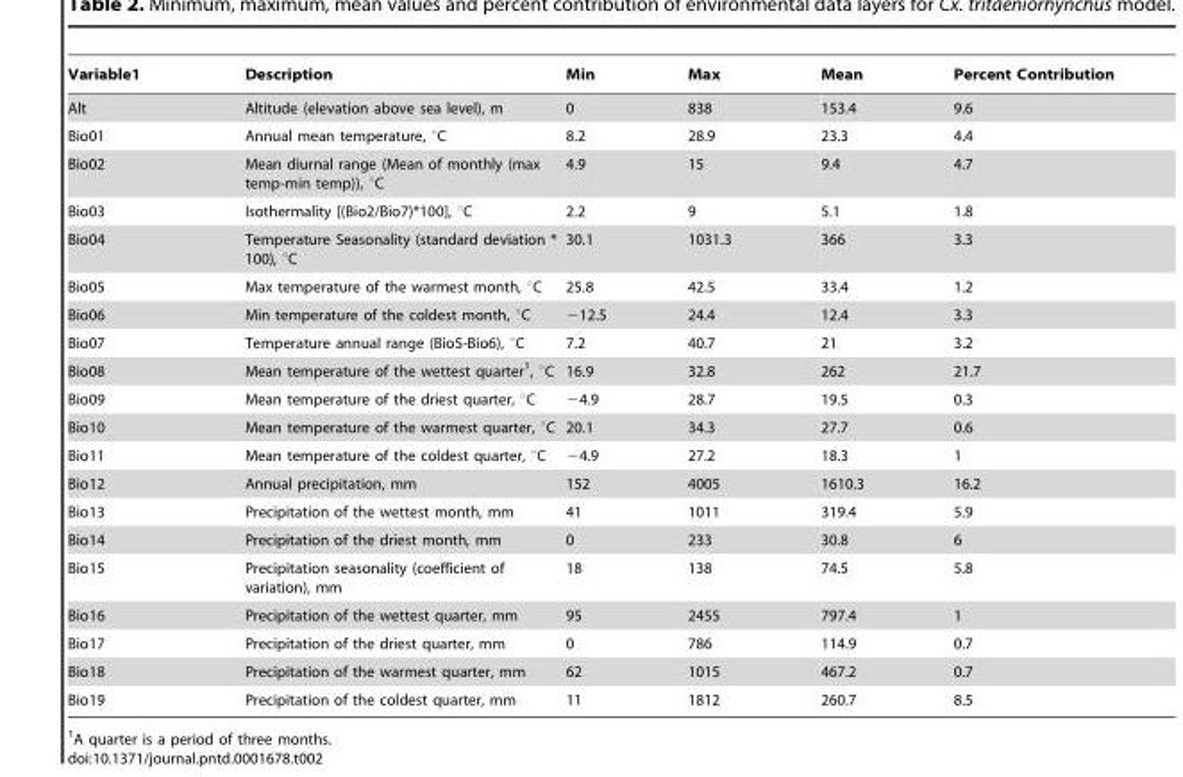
<table><thead><tr><td>Variable1</td><td>Description</td><td>Min</td><td>Max</td><td>Mean</td><td>Percent Contribution</td></tr></thead><tbody><tr><td>Alt</td><td>Altitude (elevation above sea level), m</td><td>0</td><td>838</td><td>153.4</td><td>9.6</td></tr><tr><td>Bio01</td><td>Annual mean temperature, °C</td><td>8.2</td><td>28.9</td><td>23.3</td><td>4.4</td></tr><tr><td>Bio02</td><td>Mean diurnal range (Mean of monthly (max temp-min temp)), °C</td><td>4.9</td><td>15</td><td>9.4</td><td>4.7</td></tr><tr><td>Bio03</td><td>Isothermality [(Bio2/Bio7)*100], °C</td><td>2.2</td><td>9</td><td>5.1</td><td>1.8</td></tr><tr><td>Bio04</td><td>Temperature Seasonality (standard deviation * 100), °C</td><td>30.1</td><td>1031.3</td><td>366</td><td>3.3</td></tr><tr><td>Bio05</td><td>Max temperature of the warmest month, °C</td><td>25.8</td><td>42.5</td><td>33.4</td><td>1.2</td></tr><tr><td>Bio06</td><td>Min temperature of the coldest month, °C</td><td>−12.5</td><td>24.4</td><td>12.4</td><td>3.3</td></tr><tr><td>Bio07</td><td>Temperature annual range (Bio5-Bio6), °C</td><td>7.2</td><td>40.7</td><td>21</td><td>3.2</td></tr><tr><td>Bio08</td><td>Mean temperature of the wettest quarter<sup>1</sup>, °C</td><td>16.9</td><td>32.8</td><td>262</td><td>21.7</td></tr><tr><td>Bio09</td><td>Mean temperature of the driest quarter, °C</td><td>−4.9</td><td>28.7</td><td>19.5</td><td>0.3</td></tr><tr><td>Bio10</td><td>Mean temperature of the warmest quarter, °C</td><td>20.1</td><td>34.3</td><td>27.7</td><td>0.6</td></tr><tr><td>Bio11</td><td>Mean temperature of the coldest quarter, °C</td><td>−4.9</td><td>27.2</td><td>18.3</td><td>1</td></tr><tr><td>Bio12</td><td>Annual precipitation, mm</td><td>152</td><td>4005</td><td>1610.3</td><td>16.2</td></tr><tr><td>Bio13</td><td>Precipitation of the wettest month, mm</td><td>41</td><td>1011</td><td>319.4</td><td>5.9</td></tr><tr><td>Bio14</td><td>Precipitation of the driest month, mm</td><td>0</td><td>233</td><td>30.8</td><td>6</td></tr><tr><td>Bio15</td><td>Precipitation seasonality (coefficient of variation), mm</td><td>18</td><td>138</td><td>74.5</td><td>5.8</td></tr><tr><td>Bio16</td><td>Precipitation of the wettest quarter, mm</td><td>95</td><td>2455</td><td>797.4</td><td>1</td></tr><tr><td>Bio17</td><td>Precipitation of the driest quarter, mm</td><td>0</td><td>786</td><td>114.9</td><td>0.7</td></tr><tr><td>Bio18</td><td>Precipitation of the warmest quarter, mm</td><td>62</td><td>1015</td><td>467.2</td><td>0.7</td></tr><tr><td>Bio19</td><td>Precipitation of the coldest quarter, mm</td><td>11</td><td>1812</td><td>260.7</td><td>8.5</td></tr></tbody></table>